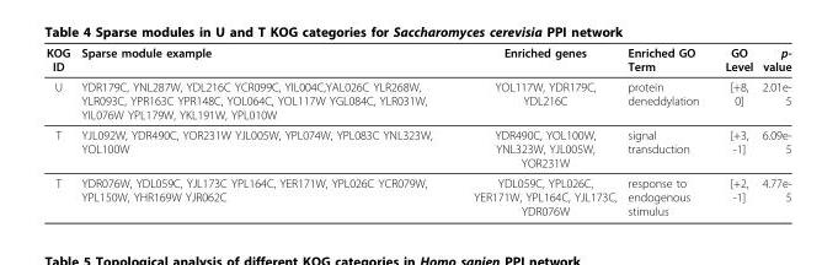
<table><thead><tr><td>KOG ID</td><td>Sparse module example</td><td>Enriched genes</td><td>Enriched GO Term</td><td>GO Level</td><td>p- value</td></tr></thead><tbody><tr><td>U</td><td>YDR179C, YNL287W, YDL216C YCR099C, YIL004C,YAL026C YLR268W, YLR093C, YPR163C YPR148C, YOL064C, YOL117W YGL084C, YLR031W, YIL076W YPL179W, YKL191W, YPL010W</td><td>YOL117W, YDR179C, YDL216C</td><td>protein deneddylation</td><td>[+8, 0]</td><td>2.01e- 5</td></tr><tr><td>T</td><td>YJL092W, YDR490C, YOR231W YJL005W, YPL074W, YPL083C YNL323W, YOL100W</td><td>YDR490C, YOL100W, YNL323W, YJL005W, YOR231W</td><td>signal transduction</td><td>[+3, -1]</td><td>6.09e- 5</td></tr><tr><td>T</td><td>YDR076W, YDL059C, YJL173C YPL164C, YER171W, YPL026C YCR079W, YPL150W, YHR169W YJR062C</td><td>YDL059C, YPL026C, YER171W, YPL164C, YJL173C, YDR076W</td><td>response to endogenous stimulus</td><td>[+2, -1]</td><td>4.77e- 5</td></tr></tbody></table>